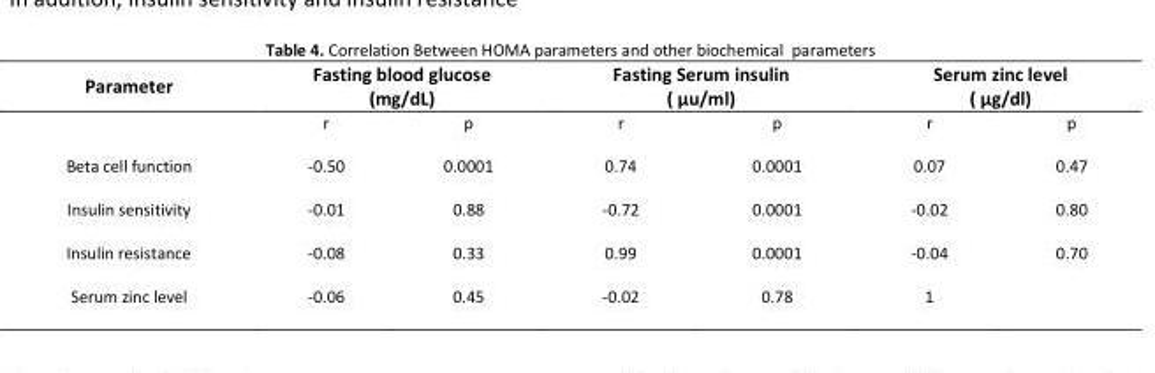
<table><thead><tr><td rowspan="2">Parameter</td><td colspan="2">Fasting blood glucose (mg/dL)</td><td colspan="2">Fasting Serum insulin ( µu/ml)</td><td colspan="2">Serum zinc level ( μg/dl)</td></tr><tr><td>r</td><td>p</td><td>r</td><td>p</td><td>r</td><td>p</td></tr></thead><tbody><tr><td>Beta cell function</td><td>-0.50</td><td>0.0001</td><td>0.74</td><td>0.0001</td><td>0.07</td><td>0.47</td></tr><tr><td>Insulin sensitivity</td><td>-0.01</td><td>0.88</td><td>-0.72</td><td>0.0001</td><td>-0.02</td><td>0.80</td></tr><tr><td>Insulin resistance</td><td>-0.08</td><td>0.33</td><td>0.99</td><td>0.0001</td><td>-0.04</td><td>0.70</td></tr><tr><td>Serum zinc level</td><td>-0.06</td><td>0.45</td><td>-0.02</td><td>0.78</td><td>1</td><td></td></tr></tbody></table>